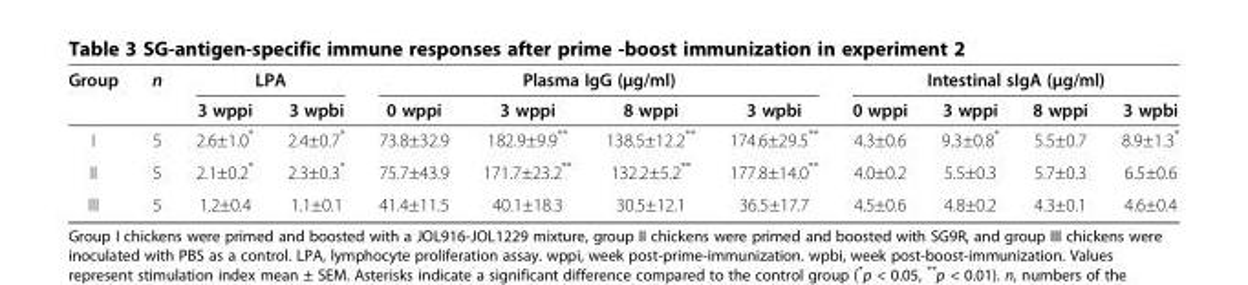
<table><thead><tr><td rowspan="2">Group</td><td rowspan="2">n</td><td colspan="2">LPA</td><td colspan="4">Plasma IgG (μg/ml)</td><td colspan="4">Intestinal sIgA (μg/ml)</td></tr><tr><td>3 wppi</td><td>3 wpbi</td><td>0 wppi</td><td>3 wppi</td><td>8 wppi</td><td>3 wpbi</td><td>0 wppi</td><td>3 wppi</td><td>8 wppi</td><td>3 wpbi</td></tr></thead><tbody><tr><td>I</td><td>5</td><td>2.6±1.0*</td><td>2.4±0.7*</td><td>73.8±32.9</td><td>182.9±9.9**</td><td>138.5±12.2**</td><td>174.6±29.5**</td><td>4.3±0.6</td><td>9.3±0.8*</td><td>5.5±0.7</td><td>8.9±1.3*</td></tr><tr><td>II</td><td>5</td><td>2.1±0.2*</td><td>2.3±0.3*</td><td>75.7±43.9</td><td>171.7±23.2**</td><td>132.2±5.2**</td><td>177.8±14.0**</td><td>4.0±0.2</td><td>5.5±0.3</td><td>5.7±0.3</td><td>6.5±0.6</td></tr><tr><td>III</td><td>5</td><td>1.2±0.4</td><td>1.1±0.1</td><td>41.4±11.5</td><td>40.1±18.3</td><td>30.5±12.1</td><td>36.5±17.7</td><td>4.5±0.6</td><td>4.8±0.2</td><td>4.3±0.1</td><td>4.6±0.4</td></tr></tbody></table>